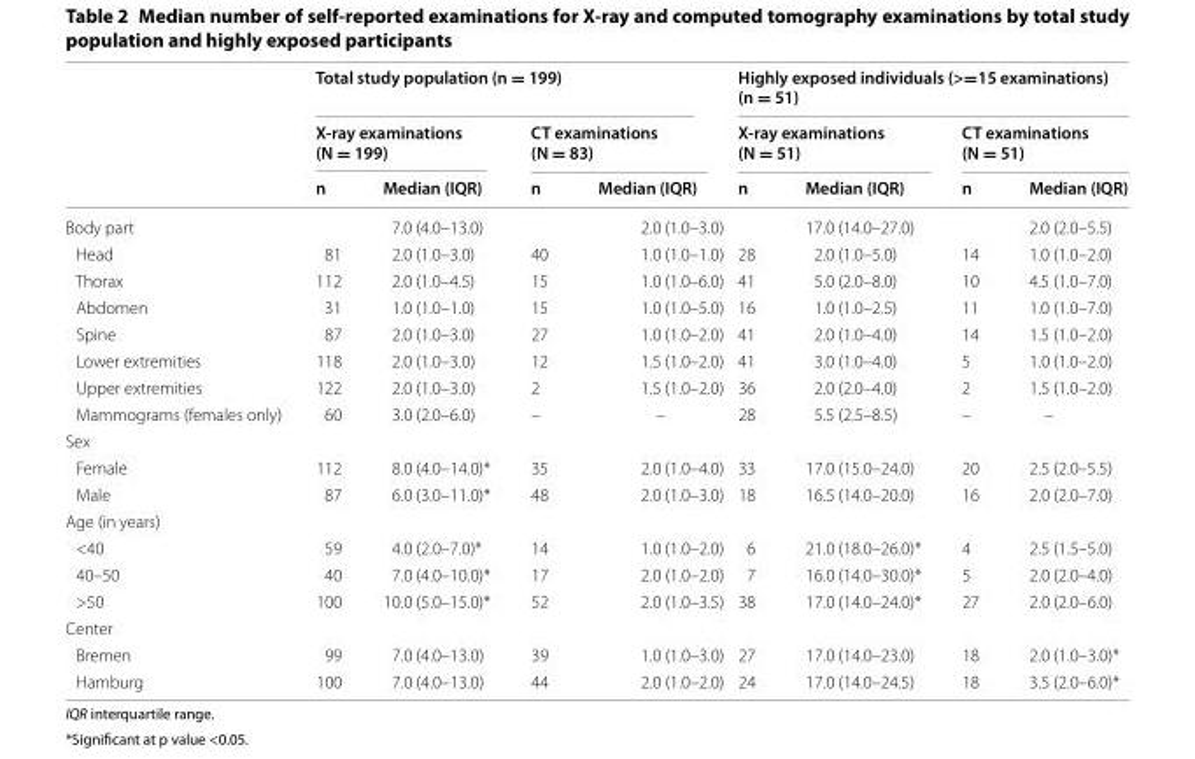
<table><thead><tr><td rowspan="3"></td><td colspan="4">Total study population (n = 199)</td><td colspan="4">Highly exposed individuals (&gt;=15 examinations) (n = 51)</td></tr><tr><td colspan="2">X‑ray examinations (N = 199)</td><td colspan="2">CT examinations (N = 83)</td><td colspan="2">X‑ray examinations (N = 51)</td><td colspan="2">CT examinations (N = 51)</td></tr><tr><td>n</td><td>Median (IQR)</td><td>n</td><td>Median (IQR)</td><td>n</td><td>Median (IQR)</td><td>n</td><td>Median (IQR)</td></tr></thead><tbody><tr><td>Body part</td><td></td><td>7.0 (4.0–13.0)</td><td></td><td>2.0 (1.0–3.0)</td><td></td><td>17.0 (14.0–27.0)</td><td></td><td>2.0 (2.0–5.5)</td></tr><tr><td>Head</td><td>81</td><td>2.0 (1.0–3.0)</td><td>40</td><td>1.0 (1.0–1.0)</td><td>28</td><td>2.0 (1.0–5.0)</td><td>14</td><td>1.0 (1.0–2.0)</td></tr><tr><td>Thorax</td><td>112</td><td>2.0 (1.0–4.5)</td><td>15</td><td>1.0 (1.0–6.0)</td><td>41</td><td>5.0 (2.0–8.0)</td><td>10</td><td>4.5 (1.0–7.0)</td></tr><tr><td>Abdomen</td><td>31</td><td>1.0 (1.0–1.0)</td><td>15</td><td>1.0 (1.0–5.0)</td><td>16</td><td>1.0 (1.0–2.5)</td><td>11</td><td>1.0 (1.0–7.0)</td></tr><tr><td>Spine</td><td>87</td><td>2.0 (1.0–3.0)</td><td>27</td><td>1.0 (1.0–2.0)</td><td>41</td><td>2.0 (1.0–4.0)</td><td>14</td><td>1.5 (1.0–2.0)</td></tr><tr><td>Lower extremities</td><td>118</td><td>2.0 (1.0–3.0)</td><td>12</td><td>1.5 (1.0–2.0)</td><td>41</td><td>3.0 (1.0–4.0)</td><td>5</td><td>1.0 (1.0–2.0)</td></tr><tr><td>Upper extremities</td><td>122</td><td>2.0 (1.0–3.0)</td><td>2</td><td>1.5 (1.0–2.0)</td><td>36</td><td>2.0 (2.0–4.0)</td><td>2</td><td>1.5 (1.0–2.0)</td></tr><tr><td>Mammograms (females only)</td><td>60</td><td>3.0 (2.0–6.0)</td><td>–</td><td>–</td><td>28</td><td>5.5 (2.5–8.5)</td><td>–</td><td>–</td></tr><tr><td colspan="9">Sex</td></tr><tr><td>Female</td><td>112</td><td>8.0 (4.0–14.0)*</td><td>35</td><td>2.0 (1.0–4.0)</td><td>33</td><td>17.0 (15.0–24.0)</td><td>20</td><td>2.5 (2.0–5.5)</td></tr><tr><td>Male</td><td>87</td><td>6.0 (3.0–11.0)*</td><td>48</td><td>2.0 (1.0–3.0)</td><td>18</td><td>16.5 (14.0–20.0)</td><td>16</td><td>2.0 (2.0–7.0)</td></tr><tr><td colspan="9">Age (in years)</td></tr><tr><td>&lt;40</td><td>59</td><td>4.0 (2.0–7.0)*</td><td>14</td><td>1.0 (1.0–2.0)</td><td>6</td><td>21.0 (18.0–26.0)*</td><td>4</td><td>2.5 (1.5–5.0)</td></tr><tr><td>40–50</td><td>40</td><td>7.0 (4.0–10.0)*</td><td>17</td><td>2.0 (1.0–2.0)</td><td>7</td><td>16.0 (14.0–30.0)*</td><td>5</td><td>2.0 (2.0–4.0)</td></tr><tr><td>&gt;50</td><td>100</td><td>10.0 (5.0–15.0)*</td><td>52</td><td>2.0 (1.0–3.5)</td><td>38</td><td>17.0 (14.0–24.0)*</td><td>27</td><td>2.0 (2.0–6.0)</td></tr><tr><td colspan="9">Center</td></tr><tr><td>Bremen</td><td>99</td><td>7.0 (4.0–13.0)</td><td>39</td><td>1.0 (1.0–3.0)</td><td>27</td><td>17.0 (14.0–23.0)</td><td>18</td><td>2.0 (1.0–3.0)*</td></tr><tr><td>Hamburg</td><td>100</td><td>7.0 (4.0–13.0)</td><td>44</td><td>2.0 (1.0–2.0)</td><td>24</td><td>17.0 (14.0–24.5)</td><td>18</td><td>3.5 (2.0–6.0)*</td></tr></tbody></table>